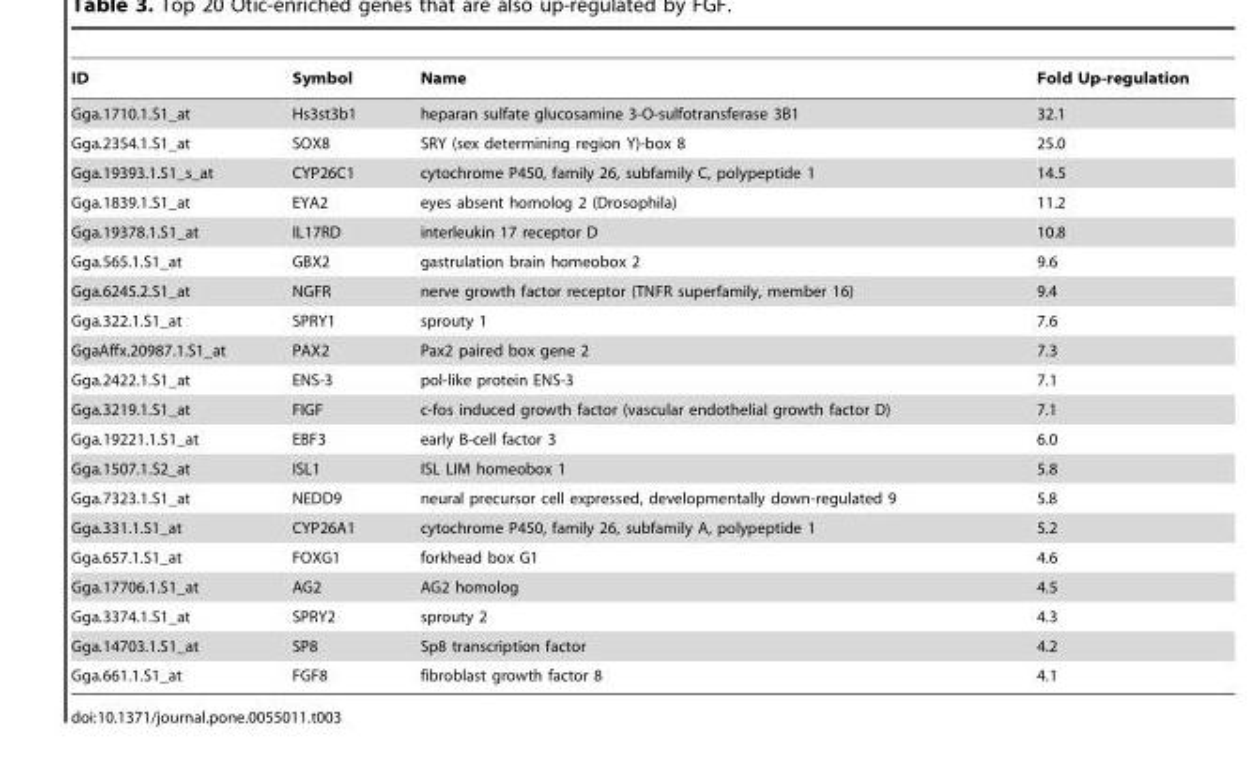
<table><thead><tr><td>ID</td><td>Symbol</td><td>Name</td><td>Fold Up-regulation</td></tr></thead><tbody><tr><td>Gga.1710.1.S1_at</td><td>Hs3st3b1</td><td>heparan sulfate glucosamine 3-O-sulfotransferase 3B1</td><td>32.1</td></tr><tr><td>Gga.2354.1.S1_at</td><td>SOX8</td><td>SRY (sex determining region Y)-box 8</td><td>25.0</td></tr><tr><td>Gga.19393.1.S1_s_at</td><td>CYP26C1</td><td>cytochrome P450, family 26, subfamily C, polypeptide 1</td><td>14.5</td></tr><tr><td>Gga.1839.1.S1_at</td><td>EYA2</td><td>eyes absent homolog 2 (Drosophila)</td><td>11.2</td></tr><tr><td>Gga.19378.1.S1_at</td><td>IL17RD</td><td>interleukin 17 receptor D</td><td>10.8</td></tr><tr><td>Gga.565.1.S1_at</td><td>GBX2</td><td>gastrulation brain homeobox 2</td><td>9.6</td></tr><tr><td>Gga.6245.2.S1_at</td><td>NGFR</td><td>nerve growth factor receptor (TNFR superfamily, member 16)</td><td>9.4</td></tr><tr><td>Gga.322.1.S1_at</td><td>SPRY1</td><td>sprouty 1</td><td>7.6</td></tr><tr><td>GgaAffx.20987.1.S1_at</td><td>PAX2</td><td>Pax2 paired box gene 2</td><td>7.3</td></tr><tr><td>Gga.2422.1.S1_at</td><td>ENS-3</td><td>pol-like protein ENS-3</td><td>7.1</td></tr><tr><td>Gga.3219.1.S1_at</td><td>FIGF</td><td>c-fos induced growth factor (vascular endothelial growth factor D)</td><td>7.1</td></tr><tr><td>Gga.19221.1.S1_at</td><td>EBF3</td><td>early B-cell factor 3</td><td>6.0</td></tr><tr><td>Gga.1507.1.S2_at</td><td>ISL1</td><td>ISL LIM homeobox 1</td><td>5.8</td></tr><tr><td>Gga.7323.1.S1_at</td><td>NEDD9</td><td>neural precursor cell expressed, developmentally down-regulated 9</td><td>5.8</td></tr><tr><td>Gga.331.1.S1_at</td><td>CYP26A1</td><td>cytochrome P450, family 26, subfamily A, polypeptide 1</td><td>5.2</td></tr><tr><td>Gga.657.1.S1_at</td><td>FOXG1</td><td>forkhead box G1</td><td>4.6</td></tr><tr><td>Gga.17706.1.S1_at</td><td>AG2</td><td>AG2 homolog</td><td>4.5</td></tr><tr><td>Gga.3374.1.S1_at</td><td>SPRY2</td><td>sprouty 2</td><td>4.3</td></tr><tr><td>Gga.14703.1.S1_at</td><td>SP8</td><td>Sp8 transcription factor</td><td>4.2</td></tr><tr><td>Gga.661.1.S1_at</td><td>FGF8</td><td>fibroblast growth factor 8</td><td>4.1</td></tr></tbody></table>